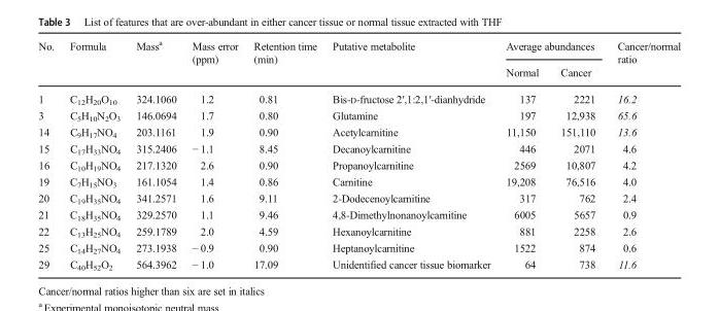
<table><thead><tr><td rowspan="2">No.</td><td rowspan="2">Formula</td><td rowspan="2">Mass<sup>a</sup></td><td rowspan="2">Mass error (ppm)</td><td rowspan="2">Retention time (min)</td><td rowspan="2">Putative metabolite</td><td colspan="2">Average abundances</td><td rowspan="2">Cancer/normal ratio</td></tr><tr><td>Normal</td><td>Cancer</td></tr></thead><tbody><tr><td>1</td><td>C<sub>12</sub>H<sub>20</sub>O<sub>10</sub></td><td>324.1060</td><td>1.2</td><td>0.81</td><td>Bis-D-fructose 2′,1:2,1′-dianhydride</td><td>137</td><td>2221</td><td>16.2</td></tr><tr><td>3</td><td>C<sub>5</sub>H<sub>10</sub>N<sub>2</sub>O<sub>3</sub></td><td>146.0694</td><td>1.7</td><td>0.80</td><td>Glutamine</td><td>197</td><td>12,938</td><td>65.6</td></tr><tr><td>14</td><td>C<sub>9</sub>H<sub>17</sub>NO<sub>4</sub></td><td>203.1161</td><td>1.9</td><td>0.90</td><td>Acetylcarnitine</td><td>11,150</td><td>151,110</td><td>13.6</td></tr><tr><td>15</td><td>C<sub>17</sub>H<sub>33</sub>NO<sub>4</sub></td><td>315.2406</td><td>− 1.1</td><td>8.45</td><td>Decanoylcarnitine</td><td>446</td><td>2071</td><td>4.6</td></tr><tr><td>16</td><td>C<sub>10</sub>H<sub>19</sub>NO<sub>4</sub></td><td>217.1320</td><td>2.6</td><td>0.90</td><td>Propanoylcarnitine</td><td>2569</td><td>10,807</td><td>4.2</td></tr><tr><td>19</td><td>C<sub>7</sub>H<sub>15</sub>NO<sub>3</sub></td><td>161.1054</td><td>1.4</td><td>0.86</td><td>Carnitine</td><td>19,208</td><td>76,516</td><td>4.0</td></tr><tr><td>20</td><td>C<sub>19</sub>H<sub>35</sub>NO<sub>4</sub></td><td>341.2571</td><td>1.6</td><td>9.11</td><td>2-Dodecenoylcarnitine</td><td>317</td><td>762</td><td>2.4</td></tr><tr><td>21</td><td>C<sub>18</sub>H<sub>35</sub>NO<sub>4</sub></td><td>329.2570</td><td>1.1</td><td>9.46</td><td>4,8-Dimethylnonanoylcarnitine</td><td>6005</td><td>5657</td><td>0.9</td></tr><tr><td>22</td><td>C<sub>13</sub>H<sub>25</sub>NO<sub>4</sub></td><td>259.1789</td><td>2.0</td><td>4.59</td><td>Hexanoylcarnitine</td><td>881</td><td>2258</td><td>2.6</td></tr><tr><td>25</td><td>C<sub>14</sub>H<sub>27</sub>NO<sub>4</sub></td><td>273.1938</td><td>− 0.9</td><td>0.90</td><td>Heptanoylcarnitine</td><td>1522</td><td>874</td><td>0.6</td></tr><tr><td>29</td><td>C<sub>40</sub>H<sub>52</sub>O<sub>2</sub></td><td>564.3962</td><td>− 1.0</td><td>17.09</td><td>Unidentified cancer tissue biomarker</td><td>64</td><td>738</td><td>11.6</td></tr></tbody></table>